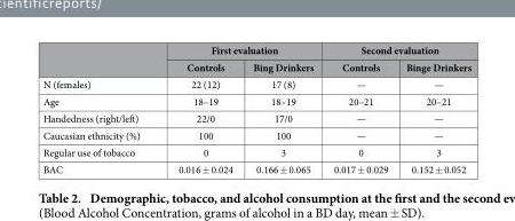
<table><thead><tr><td rowspan="2"></td><td colspan="2">First evaluation</td><td colspan="2">Second evaluation</td></tr><tr><td>Controls</td><td>Bing Drinkers</td><td>Controls</td><td>Binge Drinkers</td></tr></thead><tbody><tr><td>N (females)</td><td>22 (12)</td><td>17 (8)</td><td>—</td><td>—</td></tr><tr><td>Age</td><td>18–19</td><td>18–19</td><td>20–21</td><td>20–21</td></tr><tr><td>Handedness (right/left)</td><td>22/0</td><td>17/0</td><td>—</td><td>—</td></tr><tr><td>Caucasian ethnicity (%)</td><td>100</td><td>100</td><td>—</td><td>—</td></tr><tr><td>Regular use of tobacco</td><td>0</td><td>3</td><td>0</td><td>3</td></tr><tr><td>BAC</td><td>0.016 ± 0.024</td><td>0.166 ± 0.065</td><td>0.017 ± 0.029</td><td>0.152 ± 0.052</td></tr></tbody></table>